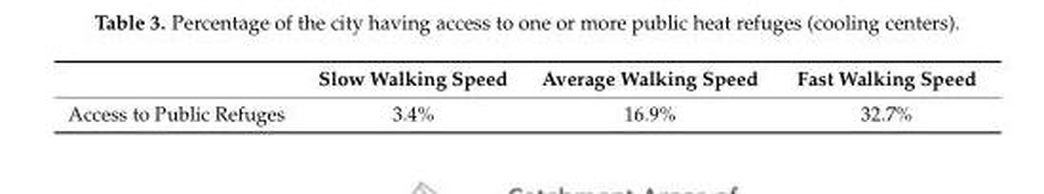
<table><thead><tr><td></td><td>Slow Walking Speed</td><td>Average Walking Speed</td><td>Fast Walking Speed</td></tr></thead><tbody><tr><td>Access to Public Refuges</td><td>3.4%</td><td>16.9%</td><td>32.7%</td></tr></tbody></table>